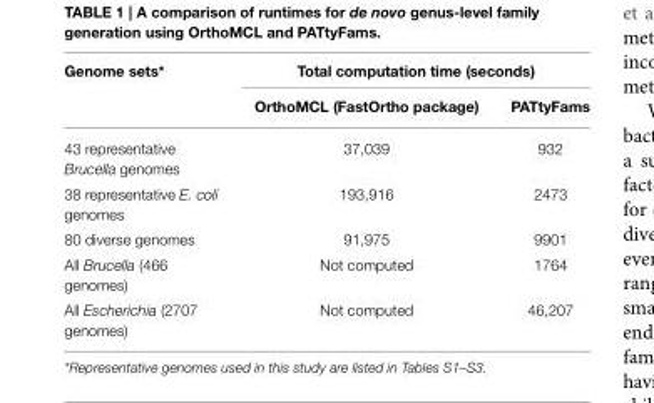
<table><thead><tr><td rowspan="2">Genome sets*</td><td colspan="2">Total computation time (seconds)</td></tr><tr><td>OrthoMCL (FastOrtho package)</td><td>PATtyFams</td></tr></thead><tbody><tr><td>43 representative Brucella genomes</td><td>37,039</td><td>932</td></tr><tr><td>38 representative E. coli genomes</td><td>193,916</td><td>2473</td></tr><tr><td>80 diverse genomes</td><td>91,975</td><td>9901</td></tr><tr><td>All Brucella (466 genomes)</td><td>Not computed</td><td>1764</td></tr><tr><td>All Escherichia (2707 genomes)</td><td>Not computed</td><td>46,207</td></tr></tbody></table>